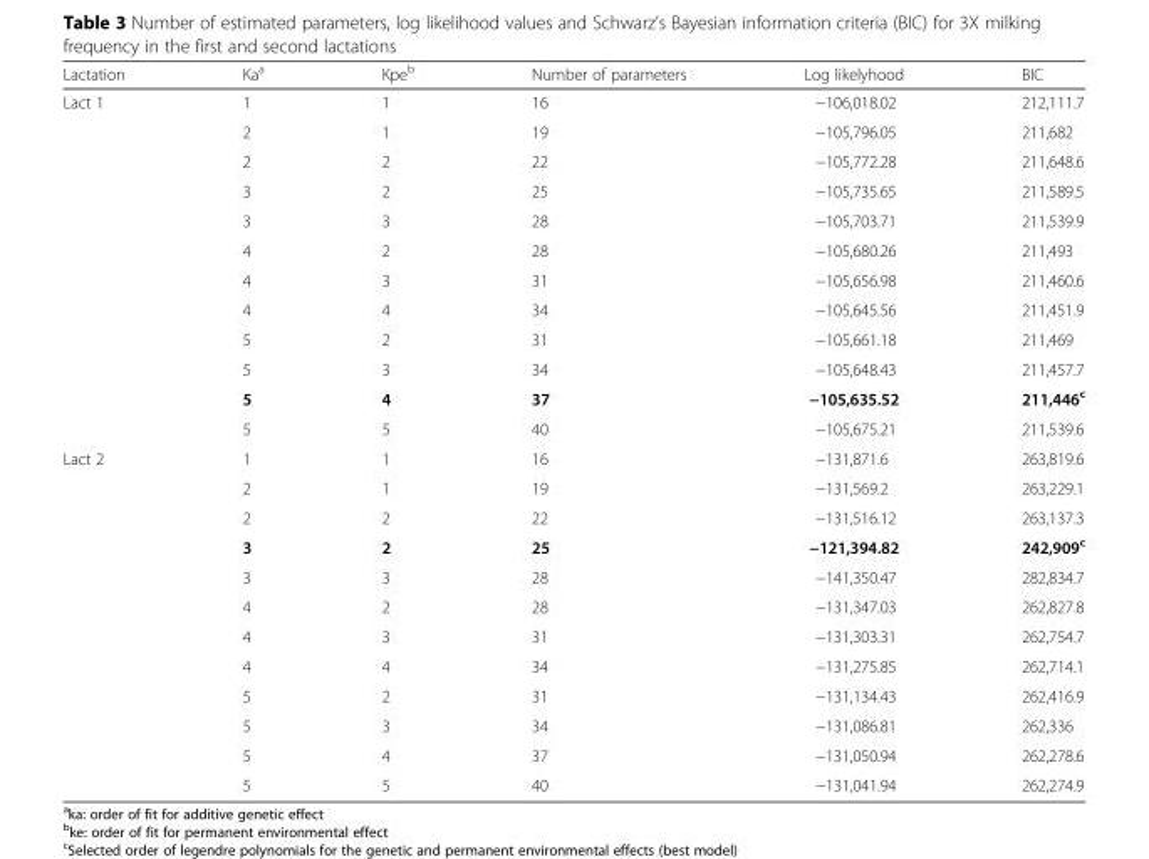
<table><thead><tr><td>Lactation</td><td>Ka<sup>a</sup></td><td>Kpe<sup>b</sup></td><td>Number of parameters</td><td>Log likelyhood</td><td>BIC</td></tr></thead><tbody><tr><td rowspan="12">Lact 1</td><td>1</td><td>1</td><td>16</td><td>−106,018.02</td><td>212,111.7</td></tr><tr><td>2</td><td>1</td><td>19</td><td>−105,796.05</td><td>211,682</td></tr><tr><td>2</td><td>2</td><td>22</td><td>−105,772.28</td><td>211,648.6</td></tr><tr><td>3</td><td>2</td><td>25</td><td>−105,735.65</td><td>211,589.5</td></tr><tr><td>3</td><td>3</td><td>28</td><td>−105,703.71</td><td>211,539.9</td></tr><tr><td>4</td><td>2</td><td>28</td><td>−105,680.26</td><td>211,493</td></tr><tr><td>4</td><td>3</td><td>31</td><td>−105,656.98</td><td>211,460.6</td></tr><tr><td>4</td><td>4</td><td>34</td><td>−105,645.56</td><td>211,451.9</td></tr><tr><td>5</td><td>2</td><td>31</td><td>−105,661.18</td><td>211,469</td></tr><tr><td>5</td><td>3</td><td>34</td><td>−105,648.43</td><td>211,457.7</td></tr><tr><td>5</td><td>4</td><td>37</td><td>−105,635.52</td><td>211,446<sup>c</sup></td></tr><tr><td>5</td><td>5</td><td>40</td><td>−105,675.21</td><td>211,539.6</td></tr><tr><td rowspan="12">Lact 2</td><td>1</td><td>1</td><td>16</td><td>−131,871.6</td><td>263,819.6</td></tr><tr><td>2</td><td>1</td><td>19</td><td>−131,569.2</td><td>263,229.1</td></tr><tr><td>2</td><td>2</td><td>22</td><td>−131,516.12</td><td>263,137.3</td></tr><tr><td>3</td><td>2</td><td>25</td><td>−121,394.82</td><td>242,909<sup>c</sup></td></tr><tr><td>3</td><td>3</td><td>28</td><td>−141,350.47</td><td>282,834.7</td></tr><tr><td>4</td><td>2</td><td>28</td><td>−131,347.03</td><td>262,827.8</td></tr><tr><td>4</td><td>3</td><td>31</td><td>−131,303.31</td><td>262,754.7</td></tr><tr><td>4</td><td>4</td><td>34</td><td>−131,275.85</td><td>262,714.1</td></tr><tr><td>5</td><td>2</td><td>31</td><td>−131,134.43</td><td>262,416.9</td></tr><tr><td>5</td><td>3</td><td>34</td><td>−131,086.81</td><td>262,336</td></tr><tr><td>5</td><td>4</td><td>37</td><td>−131,050.94</td><td>262,278.6</td></tr><tr><td>5</td><td>5</td><td>40</td><td>−131,041.94</td><td>262,274.9</td></tr></tbody></table>